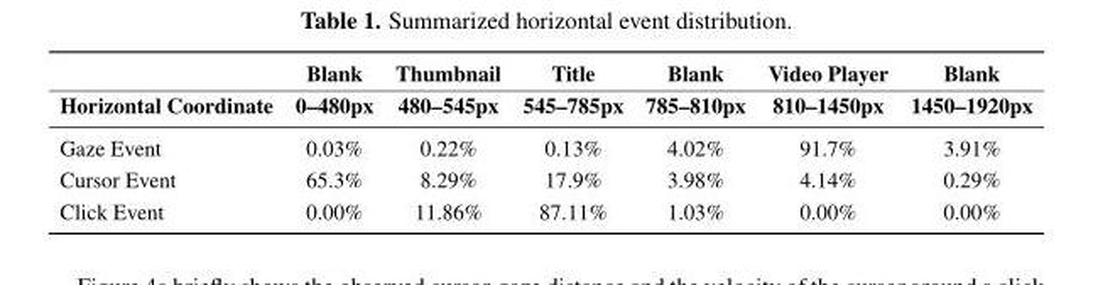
<table><thead><tr><td rowspan="2">Horizontal Coordinate</td><td rowspan="2">Blank 0–480px</td><td rowspan="2">Thumbnail 480–545px</td><td rowspan="2">Title 545–785px</td><td rowspan="2">Blank 785–810px</td><td rowspan="2">Video Player 810–1450px</td><td rowspan="2">Blank 1450–1920px</td></tr><tr></tr></thead><tbody><tr><td>Gaze Event</td><td>0.03%</td><td>0.22%</td><td>0.13%</td><td>4.02%</td><td>91.7%</td><td>3.91%</td></tr><tr><td>Cursor Event</td><td>65.3%</td><td>8.29%</td><td>17.9%</td><td>3.98%</td><td>4.14%</td><td>0.29%</td></tr><tr><td>Click Event</td><td>0.00%</td><td>11.86%</td><td>87.11%</td><td>1.03%</td><td>0.00%</td><td>0.00%</td></tr></tbody></table>